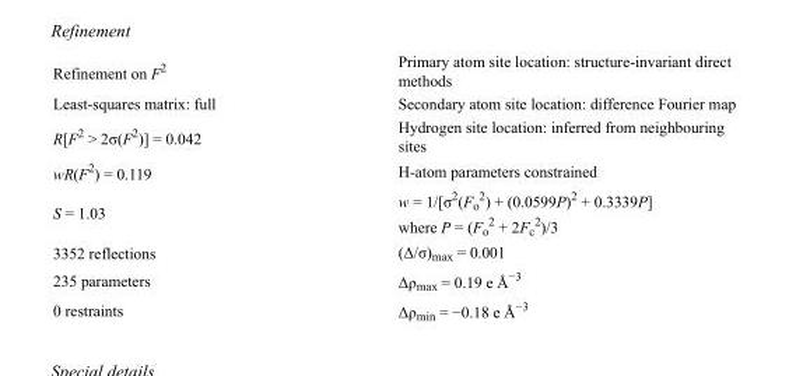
<table><tbody><tr><td>Refinement on F<sup>2</sup></td><td>Primary atom site location: structure-invariant direct methods</td></tr><tr><td>Least-squares matrix: full</td><td>Secondary atom site location: difference Fourier map</td></tr><tr><td>R[F<sup>2</sup> &gt; 2σ(F<sup>2</sup>)] = 0.042</td><td>Hydrogen site location: inferred from neighbouring sites</td></tr><tr><td>wR(F<sup>2</sup>) = 0.119</td><td>H-atom parameters constrained</td></tr><tr><td>S = 1.03</td><td>w = 1/[σ<sup>2</sup>(F<sub>o</sub> <sup>2</sup>) + (0.0599P)<sup>2</sup> + 0.3339P] where P = (F<sub>o</sub> <sup>2</sup> + 2F<sub>c</sub> <sup>2</sup>)/3</td></tr><tr><td>3352 reflections</td><td>(Δ/σ)<sub>max</sub> = 0.001</td></tr><tr><td>235 parameters</td><td>Δρ<sub>max</sub> = 0.19 e Å<sup>−3</sup></td></tr><tr><td>0 restraints</td><td>Δρ<sub>min</sub> = −0.18 e Å<sup>−3</sup></td></tr></tbody></table>